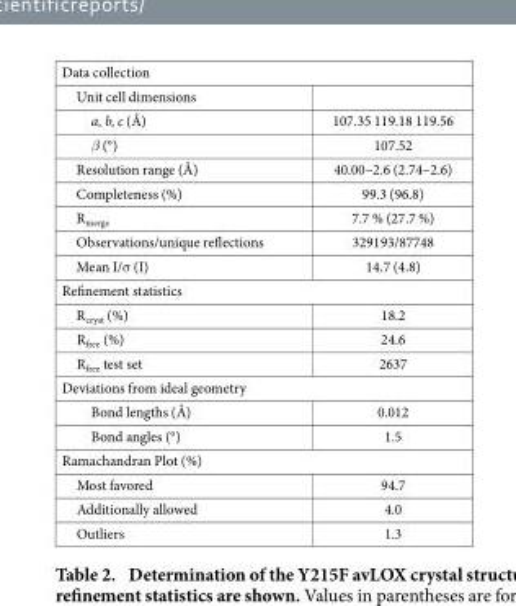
<table><tbody><tr><td colspan="2">Data collection</td></tr><tr><td colspan="2">Unit cell dimensions</td></tr><tr><td>a, b, c (Å)</td><td>107.35 119.18 119.56</td></tr><tr><td>β (°)</td><td>107.52</td></tr><tr><td>Resolution range (Å)</td><td>40.00–2.6 (2.74–2.6)</td></tr><tr><td>Completeness (%)</td><td>99.3 (96.8)</td></tr><tr><td>R<sub>merge</sub></td><td>7.7 % (27.7 %)</td></tr><tr><td>Observations/unique reflections</td><td>329193/87748</td></tr><tr><td>Mean I/σ (I)</td><td>14.7 (4.8)</td></tr><tr><td colspan="2">Refinement statistics</td></tr><tr><td>R<sub>cryst</sub> (%)</td><td>18.2</td></tr><tr><td>R<sub>free</sub> (%)</td><td>24.6</td></tr><tr><td>R<sub>free</sub> test set</td><td>2637</td></tr><tr><td colspan="2">Deviations from ideal geometry</td></tr><tr><td>Bond lengths (Å)</td><td>0.012</td></tr><tr><td>Bond angles (°)</td><td>1.5</td></tr><tr><td colspan="2">Ramachandran Plot (%)</td></tr><tr><td>Most favored</td><td>94.7</td></tr><tr><td>Additionally allowed</td><td>4.0</td></tr><tr><td>Outliers</td><td>1.3</td></tr></tbody></table>